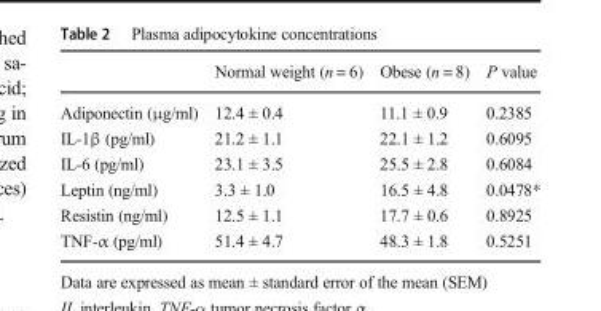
<table><thead><tr><td></td><td>Normal weight (n = 6)</td><td>Obese (n = 8)</td><td>P value</td></tr></thead><tbody><tr><td>Adiponectin (μg/ml)</td><td>12.4 ± 0.4</td><td>11.1 ± 0.9</td><td>0.2385</td></tr><tr><td>IL-1β (pg/ml)</td><td>21.2 ± 1.1</td><td>22.1 ± 1.2</td><td>0.6095</td></tr><tr><td>IL-6 (pg/ml)</td><td>23.1 ± 3.5</td><td>25.5 ± 2.8</td><td>0.6084</td></tr><tr><td>Leptin (ng/ml)</td><td>3.3 ± 1.0</td><td>16.5 ± 4.8</td><td>0.0478*</td></tr><tr><td>Resistin (ng/ml)</td><td>12.5 ± 1.1</td><td>17.7 ± 0.6</td><td>0.8925</td></tr><tr><td>TNF-α (pg/ml)</td><td>51.4 ± 4.7</td><td>48.3 ± 1.8</td><td>0.5251</td></tr></tbody></table>